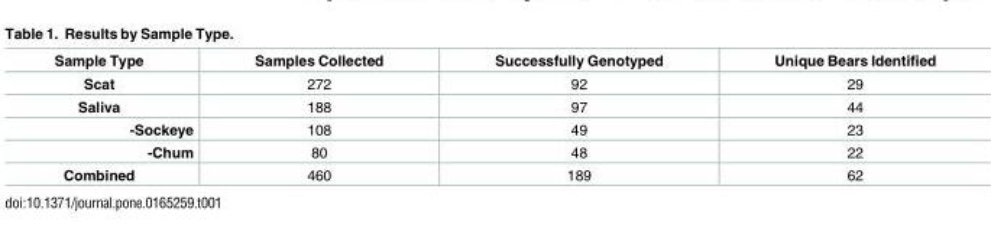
<table><thead><tr><td>Sample Type</td><td>Samples Collected</td><td>Successfully Genotyped</td><td>Unique Bears Identified</td></tr></thead><tbody><tr><td>Scat</td><td>272</td><td>92</td><td>29</td></tr><tr><td>Saliva</td><td>188</td><td>97</td><td>44</td></tr><tr><td>-Sockeye</td><td>108</td><td>49</td><td>23</td></tr><tr><td>-Chum</td><td>80</td><td>48</td><td>22</td></tr><tr><td>Combined</td><td>460</td><td>189</td><td>62</td></tr></tbody></table>